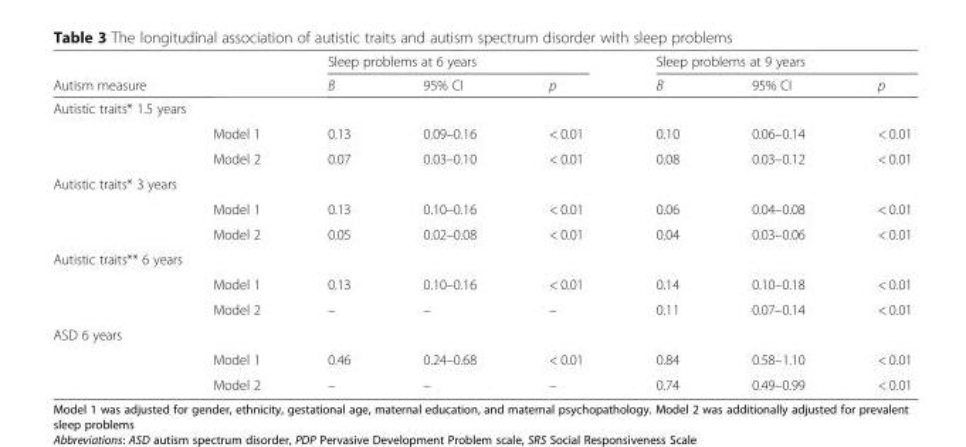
<table><thead><tr><td rowspan="2">Autism measure</td><td rowspan="2"></td><td colspan="3">Sleep problems at 6 years</td><td colspan="3">Sleep problems at 9 years</td></tr><tr><td>B</td><td>95% CI</td><td>p</td><td>B</td><td>95% CI</td><td>p</td></tr></thead><tbody><tr><td colspan="8">Autistic traits* 1.5 years</td></tr><tr><td></td><td>Model 1</td><td>0.13</td><td>0.09–0.16</td><td>&lt; 0.01</td><td>0.10</td><td>0.06–0.14</td><td>&lt; 0.01</td></tr><tr><td></td><td>Model 2</td><td>0.07</td><td>0.03–0.10</td><td>&lt; 0.01</td><td>0.08</td><td>0.03–0.12</td><td>&lt; 0.01</td></tr><tr><td colspan="8">Autistic traits* 3 years</td></tr><tr><td></td><td>Model 1</td><td>0.13</td><td>0.10–0.16</td><td>&lt; 0.01</td><td>0.06</td><td>0.04–0.08</td><td>&lt; 0.01</td></tr><tr><td></td><td>Model 2</td><td>0.05</td><td>0.02–0.08</td><td>&lt; 0.01</td><td>0.04</td><td>0.03–0.06</td><td>&lt; 0.01</td></tr><tr><td colspan="8">Autistic traits** 6 years</td></tr><tr><td></td><td>Model 1</td><td>0.13</td><td>0.10–0.16</td><td>&lt; 0.01</td><td>0.14</td><td>0.10–0.18</td><td>&lt; 0.01</td></tr><tr><td></td><td>Model 2</td><td>–</td><td>–</td><td>–</td><td>0.11</td><td>0.07–0.14</td><td>&lt; 0.01</td></tr><tr><td colspan="8">ASD 6 years</td></tr><tr><td></td><td>Model 1</td><td>0.46</td><td>0.24–0.68</td><td>&lt; 0.01</td><td>0.84</td><td>0.58–1.10</td><td>&lt; 0.01</td></tr><tr><td></td><td>Model 2</td><td>–</td><td>–</td><td>–</td><td>0.74</td><td>0.49–0.99</td><td>&lt; 0.01</td></tr></tbody></table>